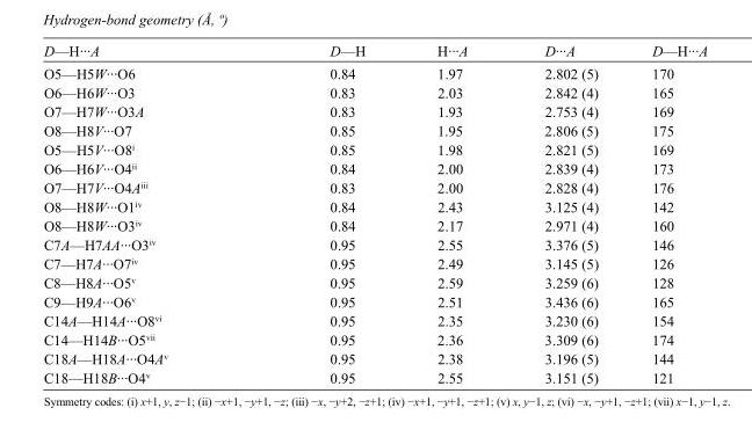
<table><tbody><tr><td>D—H···A</td><td>D—H</td><td>H···A</td><td>D···A</td><td>D—H···A</td></tr><tr><td>O5—H5W···O6</td><td>0.84</td><td>1.97</td><td>2.802 (5)</td><td>170</td></tr><tr><td>O6—H6W···O3</td><td>0.83</td><td>2.03</td><td>2.842 (4)</td><td>165</td></tr><tr><td>O7—H7W···O3A</td><td>0.83</td><td>1.93</td><td>2.753 (4)</td><td>169</td></tr><tr><td>O8—H8V···O7</td><td>0.85</td><td>1.95</td><td>2.806 (5)</td><td>175</td></tr><tr><td>O5—H5V···O8<sup>i</sup></td><td>0.85</td><td>1.98</td><td>2.821 (5)</td><td>169</td></tr><tr><td>O6—H6V···O4<sup>ii</sup></td><td>0.84</td><td>2.00</td><td>2.839 (4)</td><td>173</td></tr><tr><td>O7—H7V···O4A<sup>iii</sup></td><td>0.83</td><td>2.00</td><td>2.828 (4)</td><td>176</td></tr><tr><td>O8—H8W···O1<sup>iv</sup></td><td>0.84</td><td>2.43</td><td>3.125 (4)</td><td>142</td></tr><tr><td>O8—H8W···O3<sup>iv</sup></td><td>0.84</td><td>2.17</td><td>2.971 (4)</td><td>160</td></tr><tr><td>C7A—H7AA···O3<sup>iv</sup></td><td>0.95</td><td>2.55</td><td>3.376 (5)</td><td>146</td></tr><tr><td>C7—H7A···O7<sup>iv</sup></td><td>0.95</td><td>2.49</td><td>3.145 (5)</td><td>126</td></tr><tr><td>C8—H8A···O5<sup>v</sup></td><td>0.95</td><td>2.59</td><td>3.259 (6)</td><td>128</td></tr><tr><td>C9—H9A···O6<sup>v</sup></td><td>0.95</td><td>2.51</td><td>3.436 (6)</td><td>165</td></tr><tr><td>C14A—H14A···O8<sup>vi</sup></td><td>0.95</td><td>2.35</td><td>3.230 (6)</td><td>154</td></tr><tr><td>C14—H14B···O5<sup>vii</sup></td><td>0.95</td><td>2.36</td><td>3.309 (6)</td><td>174</td></tr><tr><td>C18A—H18A···O4A<sup>v</sup></td><td>0.95</td><td>2.38</td><td>3.196 (5)</td><td>144</td></tr><tr><td>C18—H18B···O4<sup>v</sup></td><td>0.95</td><td>2.55</td><td>3.151 (5)</td><td>121</td></tr></tbody></table>